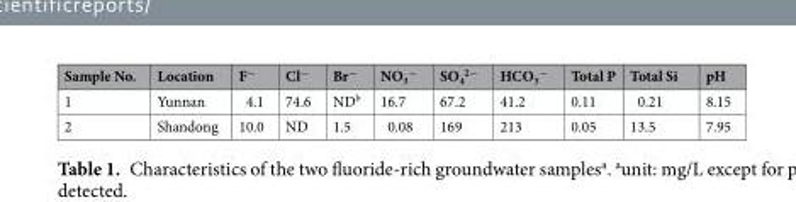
<table><thead><tr><td>Sample No.</td><td>Location</td><td>F<sup>−</sup></td><td>Cl<sup>−</sup></td><td>Br<sup>−</sup></td><td>NO<sub>3</sub> <sup>−</sup></td><td>SO<sub>4</sub> <sup>2−</sup></td><td>HCO<sub>3</sub> <sup>−</sup></td><td>Total P</td><td>Total Si</td><td>pH</td></tr></thead><tbody><tr><td>1</td><td>Yunnan</td><td>4.1</td><td>74.6</td><td>ND<sup>b</sup></td><td>16.7</td><td>67.2</td><td>41.2</td><td>0.11</td><td>0.21</td><td>8.15</td></tr><tr><td>2</td><td>Shandong</td><td>10.0</td><td>ND</td><td>1.5</td><td>0.08</td><td>169</td><td>213</td><td>0.05</td><td>13.5</td><td>7.95</td></tr></tbody></table>